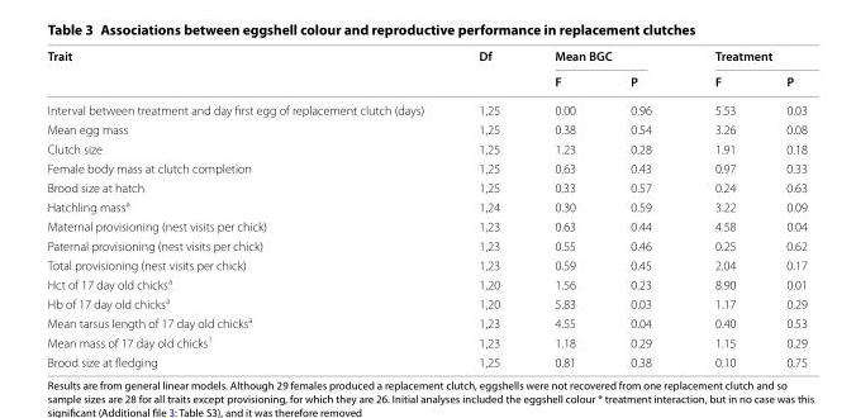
<table><thead><tr><td rowspan="2">Trait</td><td rowspan="2">Df</td><td colspan="2">Mean BGC</td><td colspan="2">Treatment</td></tr><tr><td>F</td><td>P</td><td>F</td><td>P</td></tr></thead><tbody><tr><td>Interval between treatment and day first egg of replacement clutch (days)</td><td>1,25</td><td>0.00</td><td>0.96</td><td>5.53</td><td>0.03</td></tr><tr><td>Mean egg mass</td><td>1,25</td><td>0.38</td><td>0.54</td><td>3.26</td><td>0.08</td></tr><tr><td>Clutch size</td><td>1,25</td><td>1.23</td><td>0.28</td><td>1.91</td><td>0.18</td></tr><tr><td>Female body mass at clutch completion</td><td>1,25</td><td>0.63</td><td>0.43</td><td>0.97</td><td>0.33</td></tr><tr><td>Brood size at hatch</td><td>1,25</td><td>0.33</td><td>0.57</td><td>0.24</td><td>0.63</td></tr><tr><td>Hatchling mass<sup>a</sup></td><td>1,24</td><td>0.30</td><td>0.59</td><td>3.22</td><td>0.09</td></tr><tr><td>Maternal provisioning (nest visits per chick)</td><td>1,23</td><td>0.63</td><td>0.44</td><td>4.58</td><td>0.04</td></tr><tr><td>Paternal provisioning (nest visits per chick)</td><td>1,23</td><td>0.55</td><td>0.46</td><td>0.25</td><td>0.62</td></tr><tr><td>Total provisioning (nest visits per chick)</td><td>1,23</td><td>0.59</td><td>0.45</td><td>2.04</td><td>0.17</td></tr><tr><td>Hct of 17 day old chicks<sup>a</sup></td><td>1,20</td><td>1.56</td><td>0.23</td><td>8.90</td><td>0.01</td></tr><tr><td>Hb of 17 day old chicks<sup>a</sup></td><td>1,20</td><td>5.83</td><td>0.03</td><td>1.17</td><td>0.29</td></tr><tr><td>Mean tarsus length of 17 day old chicks<sup>a</sup></td><td>1,23</td><td>4.55</td><td>0.04</td><td>0.40</td><td>0.53</td></tr><tr><td>Mean mass of 17 day old chicks<sup>1</sup></td><td>1,23</td><td>1.18</td><td>0.29</td><td>1.15</td><td>0.29</td></tr><tr><td>Brood size at fledging</td><td>1,25</td><td>0.81</td><td>0.38</td><td>0.10</td><td>0.75</td></tr></tbody></table>